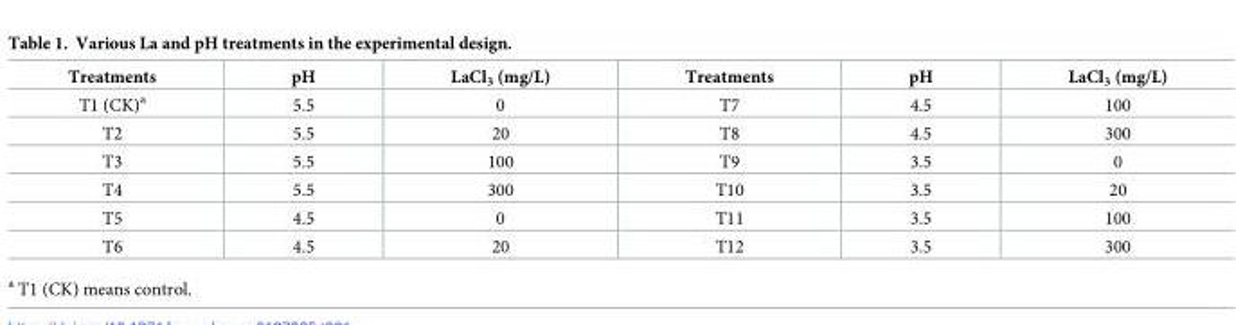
<table><thead><tr><td>Treatments</td><td>pH</td><td>LaCl<sub>3</sub> (mg/L)</td><td>Treatments</td><td>pH</td><td>LaCl<sub>3</sub> (mg/L)</td></tr></thead><tbody><tr><td>T1 (CK)<sup>a</sup></td><td>5.5</td><td>0</td><td>T7</td><td>4.5</td><td>100</td></tr><tr><td>T2</td><td>5.5</td><td>20</td><td>T8</td><td>4.5</td><td>300</td></tr><tr><td>T3</td><td>5.5</td><td>100</td><td>T9</td><td>3.5</td><td>0</td></tr><tr><td>T4</td><td>5.5</td><td>300</td><td>T10</td><td>3.5</td><td>20</td></tr><tr><td>T5</td><td>4.5</td><td>0</td><td>T11</td><td>3.5</td><td>100</td></tr><tr><td>T6</td><td>4.5</td><td>20</td><td>T12</td><td>3.5</td><td>300</td></tr></tbody></table>